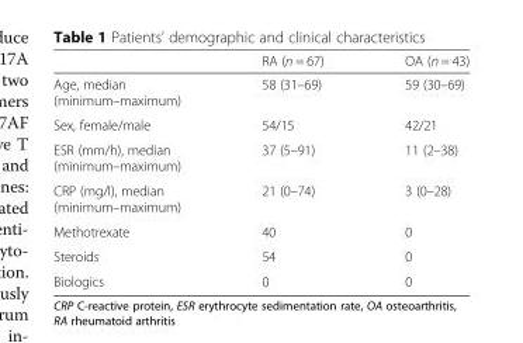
<table><thead><tr><td></td><td>RA (n = 67)</td><td>OA (n = 43)</td></tr></thead><tbody><tr><td>Age, median (minimum–maximum)</td><td>58 (31–69)</td><td>59 (30–69)</td></tr><tr><td>Sex, female/male</td><td>54/15</td><td>42/21</td></tr><tr><td>ESR (mm/h), median (minimum–maximum)</td><td>37 (5–91)</td><td>11 (2–38)</td></tr><tr><td>CRP (mg/l), median (minimum–maximum)</td><td>21 (0–74)</td><td>3 (0–28)</td></tr><tr><td>Methotrexate</td><td>40</td><td>0</td></tr><tr><td>Steroids</td><td>54</td><td>0</td></tr><tr><td>Biologics</td><td>0</td><td>0</td></tr></tbody></table>